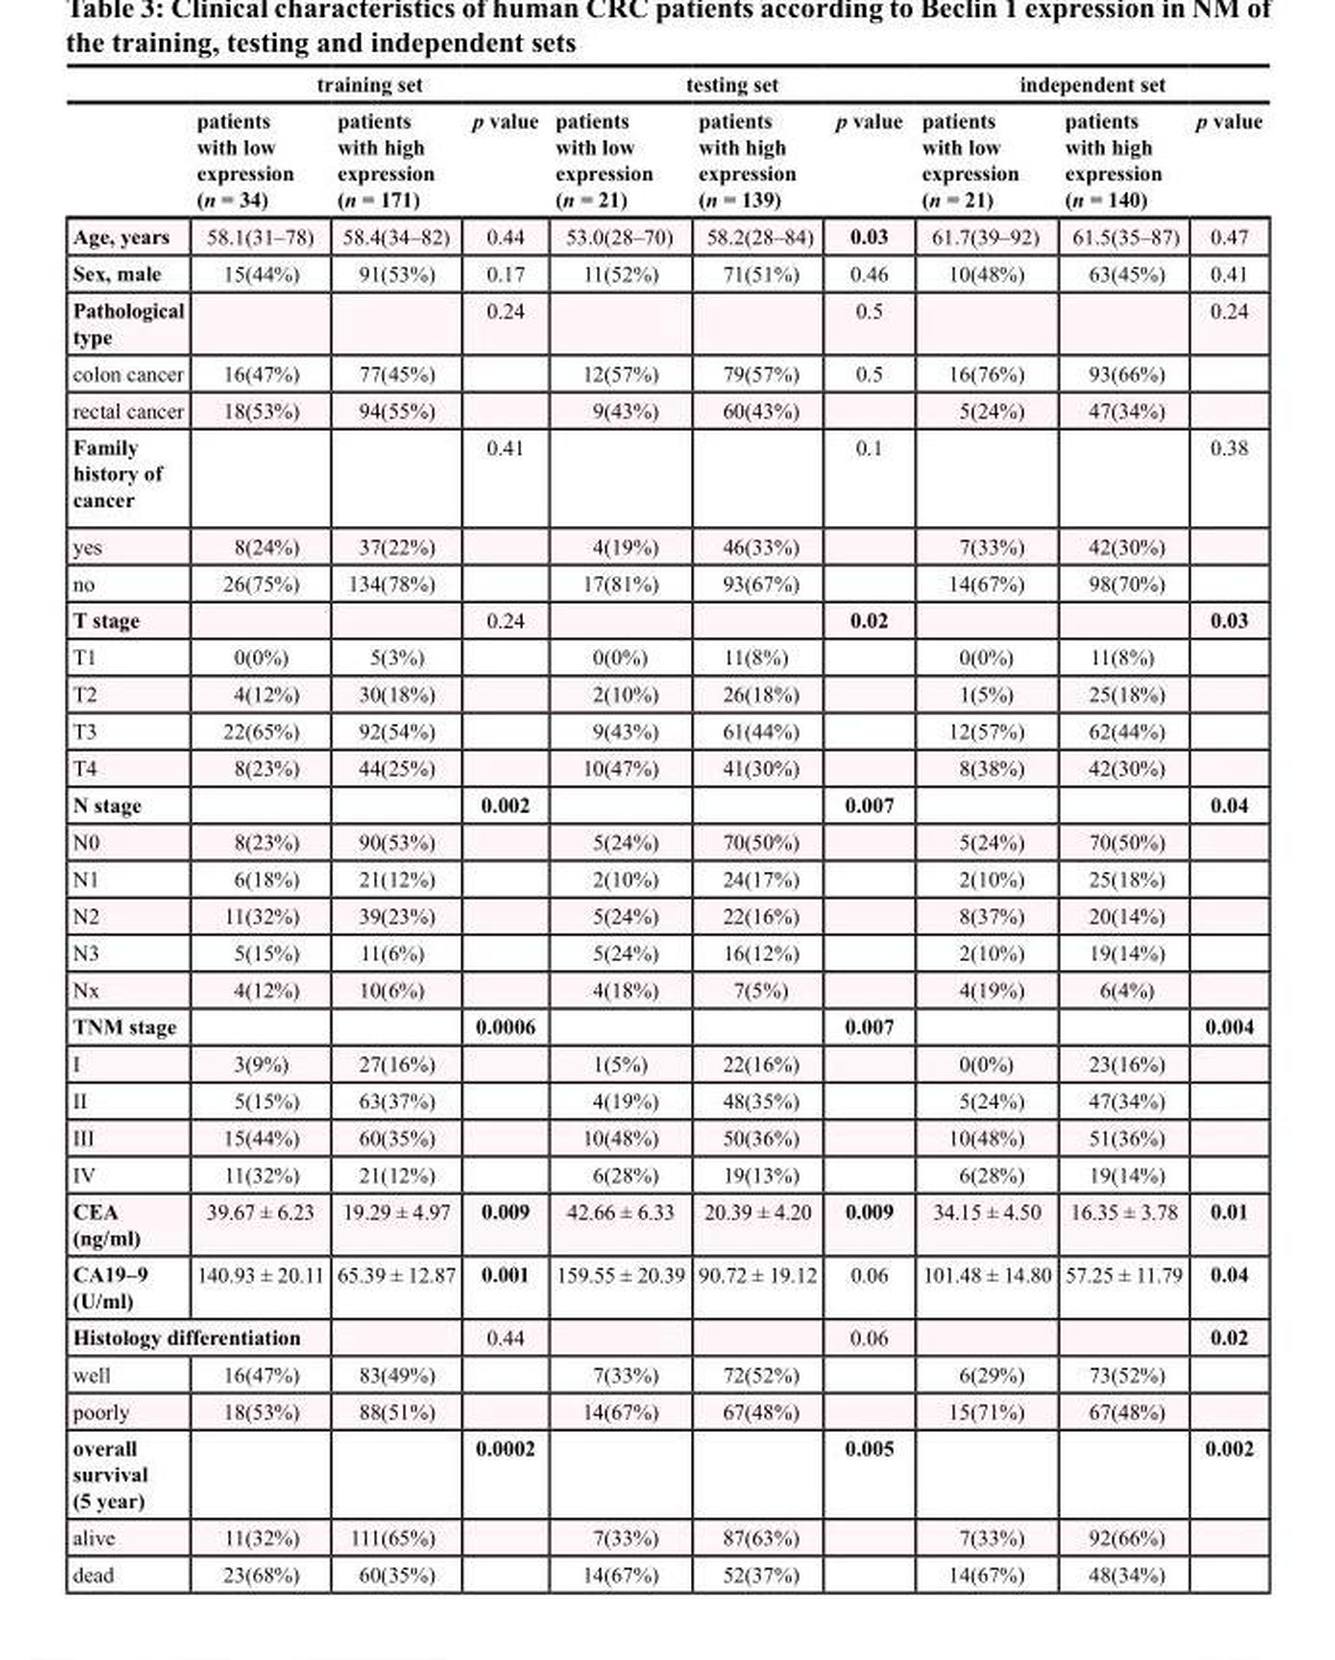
<table><thead><tr><td rowspan="2"></td><td colspan="3">training set</td><td colspan="3">testing set</td><td colspan="3">independent set</td></tr><tr><td>patients with low expression (n = 34)</td><td>patients with high expression (n = 171)</td><td>p value</td><td>patients with low expression (n = 21)</td><td>patients with high expression (n = 139)</td><td>p value</td><td>patients with low expression (n = 21)</td><td>patients with high expression (n = 140)</td><td>p value</td></tr></thead><tbody><tr><td>Age, years</td><td>58.1(31–78)</td><td>58.4(34–82)</td><td>0.44</td><td>53.0(28–70)</td><td>58.2(28–84)</td><td>0.03</td><td>61.7(39–92)</td><td>61.5(35–87)</td><td>0.47</td></tr><tr><td>Sex, male</td><td>15(44%)</td><td>91(53%)</td><td>0.17</td><td>11(52%)</td><td>71(51%)</td><td>0.46</td><td>10(48%)</td><td>63(45%)</td><td>0.41</td></tr><tr><td>Pathological type</td><td></td><td></td><td>0.24</td><td></td><td></td><td>0.5</td><td></td><td></td><td>0.24</td></tr><tr><td>colon cancer</td><td>16(47%)</td><td>77(45%)</td><td></td><td>12(57%)</td><td>79(57%)</td><td>0.5</td><td>16(76%)</td><td>93(66%)</td><td></td></tr><tr><td>rectal cancer</td><td>18(53%)</td><td>94(55%)</td><td></td><td>9(43%)</td><td>60(43%)</td><td></td><td>5(24%)</td><td>47(34%)</td><td></td></tr><tr><td>Family history of cancer</td><td></td><td></td><td>0.41</td><td></td><td></td><td>0.1</td><td></td><td></td><td>0.38</td></tr><tr><td>yes</td><td>8(24%)</td><td>37(22%)</td><td></td><td>4(19%)</td><td>46(33%)</td><td></td><td>7(33%)</td><td>42(30%)</td><td></td></tr><tr><td>no</td><td>26(75%)</td><td>134(78%)</td><td></td><td>17(81%)</td><td>93(67%)</td><td></td><td>14(67%)</td><td>98(70%)</td><td></td></tr><tr><td>T stage</td><td></td><td></td><td>0.24</td><td></td><td></td><td>0.02</td><td></td><td></td><td>0.03</td></tr><tr><td>T1</td><td>0(0%)</td><td>5(3%)</td><td></td><td>0(0%)</td><td>11(8%)</td><td></td><td>0(0%)</td><td>11(8%)</td><td></td></tr><tr><td>T2</td><td>4(12%)</td><td>30(18%)</td><td></td><td>2(10%)</td><td>26(18%)</td><td></td><td>1(5%)</td><td>25(18%)</td><td></td></tr><tr><td>T3</td><td>22(65%)</td><td>92(54%)</td><td></td><td>9(43%)</td><td>61(44%)</td><td></td><td>12(57%)</td><td>62(44%)</td><td></td></tr><tr><td>T4</td><td>8(23%)</td><td>44(25%)</td><td></td><td>10(47%)</td><td>41(30%)</td><td></td><td>8(38%)</td><td>42(30%)</td><td></td></tr><tr><td>N stage</td><td></td><td></td><td>0.002</td><td></td><td></td><td>0.007</td><td></td><td></td><td>0.04</td></tr><tr><td>N0</td><td>8(23%)</td><td>90(53%)</td><td></td><td>5(24%)</td><td>70(50%)</td><td></td><td>5(24%)</td><td>70(50%)</td><td></td></tr><tr><td>N1</td><td>6(18%)</td><td>21(12%)</td><td></td><td>2(10%)</td><td>24(17%)</td><td></td><td>2(10%)</td><td>25(18%)</td><td></td></tr><tr><td>N2</td><td>11(32%)</td><td>39(23%)</td><td></td><td>5(24%)</td><td>22(16%)</td><td></td><td>8(37%)</td><td>20(14%)</td><td></td></tr><tr><td>N3</td><td>5(15%)</td><td>11(6%)</td><td></td><td>5(24%)</td><td>16(12%)</td><td></td><td>2(10%)</td><td>19(14%)</td><td></td></tr><tr><td>Nx</td><td>4(12%)</td><td>10(6%)</td><td></td><td>4(18%)</td><td>7(5%)</td><td></td><td>4(19%)</td><td>6(4%)</td><td></td></tr><tr><td>TNM stage</td><td></td><td></td><td>0.0006</td><td></td><td></td><td>0.007</td><td></td><td></td><td>0.004</td></tr><tr><td>I</td><td>3(9%)</td><td>27(16%)</td><td></td><td>1(5%)</td><td>22(16%)</td><td></td><td>0(0%)</td><td>23(16%)</td><td></td></tr><tr><td>II</td><td>5(15%)</td><td>63(37%)</td><td></td><td>4(19%)</td><td>48(35%)</td><td></td><td>5(24%)</td><td>47(34%)</td><td></td></tr><tr><td>III</td><td>15(44%)</td><td>60(35%)</td><td></td><td>10(48%)</td><td>50(36%)</td><td></td><td>10(48%)</td><td>51(36%)</td><td></td></tr><tr><td>IV</td><td>11(32%)</td><td>21(12%)</td><td></td><td>6(28%)</td><td>19(13%)</td><td></td><td>6(28%)</td><td>19(14%)</td><td></td></tr><tr><td>CEA (ng/ml)</td><td>39.67 ± 6.23</td><td>19.29 ± 4.97</td><td>0.009</td><td>42.66 ± 6.33</td><td>20.39 ± 4.20</td><td>0.009</td><td>34.15 ± 4.50</td><td>16.35 ± 3.78</td><td>0.01</td></tr><tr><td>CA19–9 (U/ml)</td><td>140.93 ± 20.11</td><td>65.39 ± 12.87</td><td>0.001</td><td>159.55 ± 20.39</td><td>90.72 ± 19.12</td><td>0.06</td><td>101.48 ± 14.80</td><td>57.25 ± 11.79</td><td>0.04</td></tr><tr><td colspan="2">Histology differentiation</td><td></td><td>0.44</td><td></td><td></td><td>0.06</td><td></td><td></td><td>0.02</td></tr><tr><td>well</td><td>16(47%)</td><td>83(49%)</td><td></td><td>7(33%)</td><td>72(52%)</td><td></td><td>6(29%)</td><td>73(52%)</td><td></td></tr><tr><td>poorly</td><td>18(53%)</td><td>88(51%)</td><td></td><td>14(67%)</td><td>67(48%)</td><td></td><td>15(71%)</td><td>67(48%)</td><td></td></tr><tr><td>overall survival (5 year)</td><td></td><td></td><td>0.0002</td><td></td><td></td><td>0.005</td><td></td><td></td><td>0.002</td></tr><tr><td>alive</td><td>11(32%)</td><td>111(65%)</td><td></td><td>7(33%)</td><td>87(63%)</td><td></td><td>7(33%)</td><td>92(66%)</td><td></td></tr><tr><td>dead</td><td>23(68%)</td><td>60(35%)</td><td></td><td>14(67%)</td><td>52(37%)</td><td></td><td>14(67%)</td><td>48(34%)</td><td></td></tr></tbody></table>